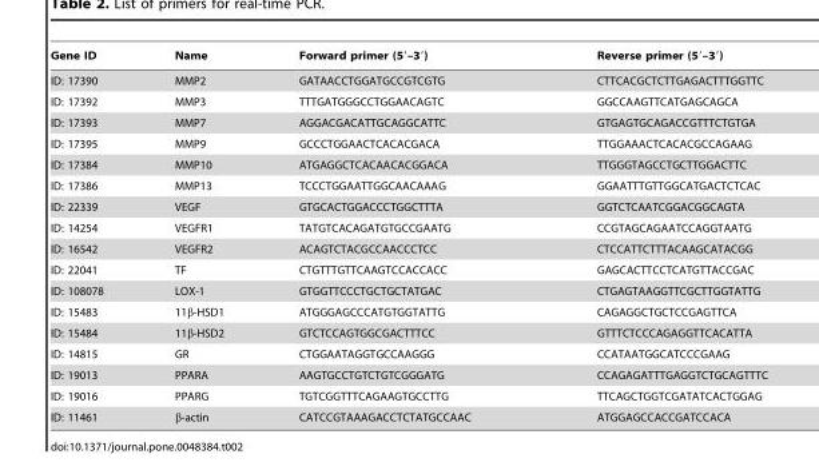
<table><thead><tr><td>Gene ID</td><td>Name</td><td>Forward primer (5′–3′)</td><td>Reverse primer (5′–3′)</td></tr></thead><tbody><tr><td>ID: 17390</td><td>MMP2</td><td>GATAACCTGGATGCCGTCGTG</td><td>CTTCACGCTCTTGAGACTTTGGTTC</td></tr><tr><td>ID: 17392</td><td>MMP3</td><td>TTTGATGGGCCTGGAACAGTC</td><td>GGCCAAGTTCATGAGCAGCA</td></tr><tr><td>ID: 17393</td><td>MMP7</td><td>AGGACGACATTGCAGGCATTC</td><td>GTGAGTGCAGACCGTTTCTGTGA</td></tr><tr><td>ID: 17395</td><td>MMP9</td><td>GCCCTGGAACTCACACGACA</td><td>TTGGAAACTCACACGCCAGAAG</td></tr><tr><td>ID: 17384</td><td>MMP10</td><td>ATGAGGCTCACAACACGGACA</td><td>TTGGGTAGCCTGCTTGGACTTC</td></tr><tr><td>ID: 17386</td><td>MMP13</td><td>TCCCTGGAATTGGCAACAAAG</td><td>GGAATTTGTTGGCATGACTCTCAC</td></tr><tr><td>ID: 22339</td><td>VEGF</td><td>GTGCACTGGACCCTGGCTTTA</td><td>GGTCTCAATCGGACGGCAGTA</td></tr><tr><td>ID: 14254</td><td>VEGFR1</td><td>TATGTCACAGATGTGCCGAATG</td><td>CCGTAGCAGAATCCAGGTAATG</td></tr><tr><td>ID: 16542</td><td>VEGFR2</td><td>ACAGTCTACGCCAACCCTCC</td><td>CTCCATTCTTTACAAGCATACGG</td></tr><tr><td>ID: 22041</td><td>TF</td><td>CTGTTTGTTCAAGTCCACCACC</td><td>GAGCACTTCCTCATGTTACCGAC</td></tr><tr><td>ID: 108078</td><td>LOX-1</td><td>GTGGTTCCCTGCTGCTATGAC</td><td>CTGAGTAAGGTTCGCTTGGTATTG</td></tr><tr><td>ID: 15483</td><td>11β-HSD1</td><td>ATGGGAGCCCATGTGGTATTG</td><td>CAGAGGCTGCTCCGAGTTCA</td></tr><tr><td>ID: 15484</td><td>11β-HSD2</td><td>GTCTCCAGTGGCGACTTTCC</td><td>GTTTCTCCCAGAGGTTCACATTA</td></tr><tr><td>ID: 14815</td><td>GR</td><td>CTGGAATAGGTGCCAAGGG</td><td>CCATAATGGCATCCCGAAG</td></tr><tr><td>ID: 19013</td><td>PPARA</td><td>AAGTGCCTGTCTGTCGGGATG</td><td>CCAGAGATTTGAGGTCTGCAGTTTC</td></tr><tr><td>ID: 19016</td><td>PPARG</td><td>TGTCGGTTTCAGAAGTGCCTTG</td><td>TTCAGCTGGTCGATATCACTGGAG</td></tr><tr><td>ID: 11461</td><td>β-actin</td><td>CATCCGTAAAGACCTCTATGCCAAC</td><td>ATGGAGCCACCGATCCACA</td></tr></tbody></table>